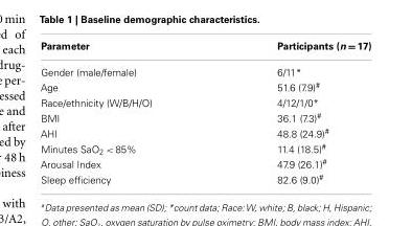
<table><thead><tr><td>Parameter</td><td>Participants (n = 17)</td></tr></thead><tbody><tr><td>Gender (male/female)</td><td>6/11*</td></tr><tr><td>Age</td><td>51.6 (7.9)<sup>#</sup></td></tr><tr><td>Race/ethnicity (W/B/H/O)</td><td>4/12/1/0*</td></tr><tr><td>BMI</td><td>36.1 (7.3)<sup>#</sup></td></tr><tr><td>AHI</td><td>48.8 (24.9)<sup>#</sup></td></tr><tr><td>Minutes SaO<sub>2</sub> &lt; 85%</td><td>11.4 (18.5)<sup>#</sup></td></tr><tr><td>Arousal Index</td><td>47.9 (26.1)<sup>#</sup></td></tr><tr><td>Sleep efficiency</td><td>82.6 (9.0)<sup>#</sup></td></tr></tbody></table>